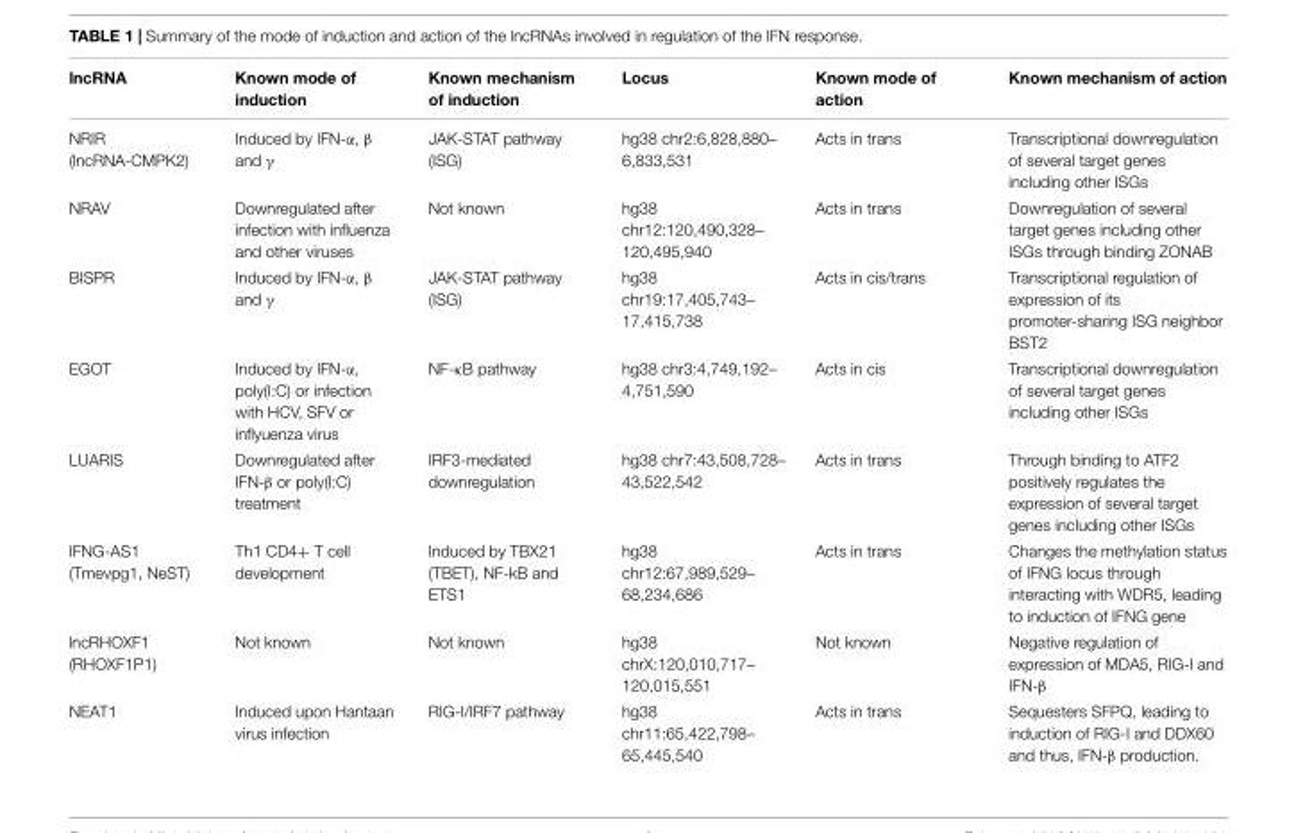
<table><thead><tr><td>lncRNA</td><td>Known mode of induction</td><td>Known mechanism of induction</td><td>Locus</td><td>Known mode of action</td><td>Known mechanism of action</td></tr></thead><tbody><tr><td>NRIR (lncRNA-CMPK2)</td><td>Induced by IFN-α, β and γ</td><td>JAK-STAT pathway (ISG)</td><td>hg38 chr2:6,828,880– 6,833,531</td><td>Acts in trans</td><td>Transcriptional downregulation of several target genes including other ISGs</td></tr><tr><td>NRAV</td><td>Downregulated after infection with influenza and other viruses</td><td>Not known</td><td>hg38 chr12:120,490,328– 120,495,940</td><td>Acts in trans</td><td>Downregulation of several target genes including other ISGs through binding ZONAB</td></tr><tr><td>BISPR</td><td>Induced by IFN-α, β and γ</td><td>JAK-STAT pathway (ISG)</td><td>hg38 chr19:17,405,743– 17,415,738</td><td>Acts in cis/trans</td><td>Transcriptional regulation of expression of its promoter-sharing ISG neighbor BST2</td></tr><tr><td>EGOT</td><td>Induced by IFN-α, poly(I:C) or infection with HCV, SFV or inflyuenza virus</td><td>NF-κB pathway</td><td>hg38 chr3:4,749,192– 4,751,590</td><td>Acts in cis</td><td>Transcriptional downregulation of several target genes including other ISGs</td></tr><tr><td>LUARIS</td><td>Downregulated after IFN-β or poly(I:C) treatment</td><td>IRF3-mediated downregulation</td><td>hg38 chr7:43,508,728– 43,522,542</td><td>Acts in trans</td><td>Through binding to ATF2 positively regulates the expression of several target genes including other ISGs</td></tr><tr><td>IFNG-AS1 (Tmevpg1, NeST)</td><td>Th1 CD4+ T cell development</td><td>Induced by TBX21 (TBET), NF-kB and ETS1</td><td>hg38 chr12:67,989,529– 68,234,686</td><td>Acts in trans</td><td>Changes the methylation status of IFNG locus through interacting with WDR5, leading to induction of IFNG gene</td></tr><tr><td>lncRHOXF1 (RHOXF1P1)</td><td>Not known</td><td>Not known</td><td>hg38 chrX:120,010,717– 120,015,551</td><td>Not known</td><td>Negative regulation of expression of MDA5, RIG-I and IFN-β</td></tr><tr><td>NEAT1</td><td>Induced upon Hantaan virus infection</td><td>RIG-I/IRF7 pathway</td><td>hg38 chr11:65,422,798– 65,445,540</td><td>Acts in trans</td><td>Sequesters SFPQ, leading to induction of RIG-I and DDX60 and thus, IFN-β production.</td></tr></tbody></table>